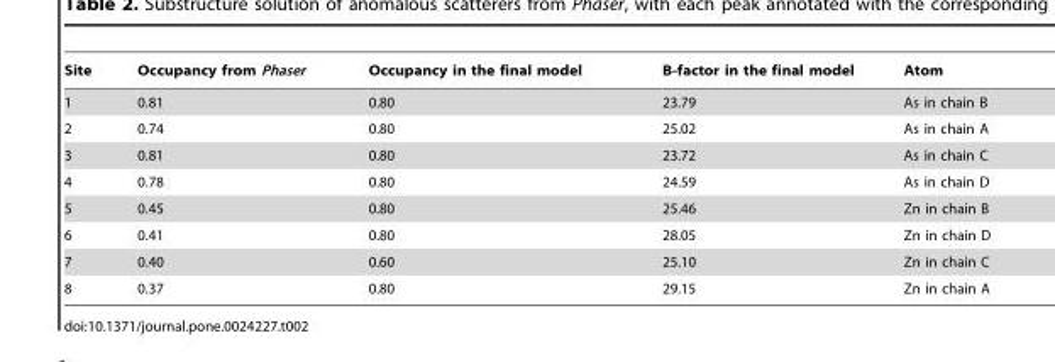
<table><thead><tr><td>Site</td><td>Occupancy from Phaser</td><td>Occupancy in the final model</td><td>B-factor in the final model</td><td>Atom</td></tr></thead><tbody><tr><td>1</td><td>0.81</td><td>0.80</td><td>23.79</td><td>As in chain B</td></tr><tr><td>2</td><td>0.74</td><td>0.80</td><td>25.02</td><td>As in chain A</td></tr><tr><td>3</td><td>0.81</td><td>0.80</td><td>23.72</td><td>As in chain C</td></tr><tr><td>4</td><td>0.78</td><td>0.80</td><td>24.59</td><td>As in chain D</td></tr><tr><td>5</td><td>0.45</td><td>0.80</td><td>25.46</td><td>Zn in chain B</td></tr><tr><td>6</td><td>0.41</td><td>0.80</td><td>28.05</td><td>Zn in chain D</td></tr><tr><td>7</td><td>0.40</td><td>0.60</td><td>25.10</td><td>Zn in chain C</td></tr><tr><td>8</td><td>0.37</td><td>0.80</td><td>29.15</td><td>Zn in chain A</td></tr></tbody></table>